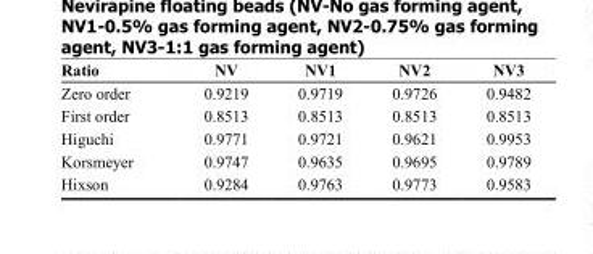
<table><thead><tr><td>Ratio</td><td>NV</td><td>NV1</td><td>NV2</td><td>NV3</td></tr></thead><tbody><tr><td>Zero order</td><td>0.9219</td><td>0.9719</td><td>0.9726</td><td>0.9482</td></tr><tr><td>First order</td><td>0.8513</td><td>0.8513</td><td>0.8513</td><td>0.8513</td></tr><tr><td>Higuchi</td><td>0.9771</td><td>0.9721</td><td>0.9621</td><td>0.9953</td></tr><tr><td>Korsmeyer</td><td>0.9747</td><td>0.9635</td><td>0.9695</td><td>0.9789</td></tr><tr><td>Hixson</td><td>0.9284</td><td>0.9763</td><td>0.9773</td><td>0.9583</td></tr></tbody></table>